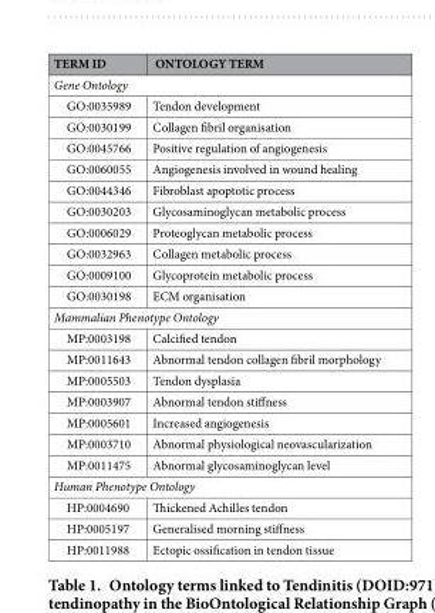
<table><thead><tr><td>TERM ID</td><td>ONTOLOGY TERM</td></tr></thead><tbody><tr><td colspan="2">Gene Ontology</td></tr><tr><td>GO:0035989</td><td>Tendon development</td></tr><tr><td>GO:0030199</td><td>Collagen fibril organisation</td></tr><tr><td>GO:0045766</td><td>Positive regulation of angiogenesis</td></tr><tr><td>GO:0060055</td><td>Angiogenesis involved in wound healing</td></tr><tr><td>GO:0044346</td><td>Fibroblast apoptotic process</td></tr><tr><td>GO:0030203</td><td>Glycosaminoglycan metabolic process</td></tr><tr><td>GO:0006029</td><td>Proteoglycan metabolic process</td></tr><tr><td>GO:0032963</td><td>Collagen metabolic process</td></tr><tr><td>GO:0009100</td><td>Glycoprotein metabolic process</td></tr><tr><td>GO:0030198</td><td>ECM organisation</td></tr><tr><td colspan="2">Mammalian Phenotype Ontology</td></tr><tr><td>MP:0003198</td><td>Calcified tendon</td></tr><tr><td>MP:0011643</td><td>Abnormal tendon collagen fibril morphology</td></tr><tr><td>MP:0005503</td><td>Tendon dysplasia</td></tr><tr><td>MP:0003907</td><td>Abnormal tendon stiffness</td></tr><tr><td>MP:0005601</td><td>Increased angiogenesis</td></tr><tr><td>MP:0003710</td><td>Abnormal physiological neovascularization</td></tr><tr><td>MP:0011475</td><td>Abnormal glycosaminoglycan level</td></tr><tr><td colspan="2">Human Phenotype Ontology</td></tr><tr><td>HP:0004690</td><td>Thickened Achilles tendon</td></tr><tr><td>HP:0005197</td><td>Generalised morning stiffness</td></tr><tr><td>HP:0011988</td><td>Ectopic ossification in tendon tissue</td></tr></tbody></table>